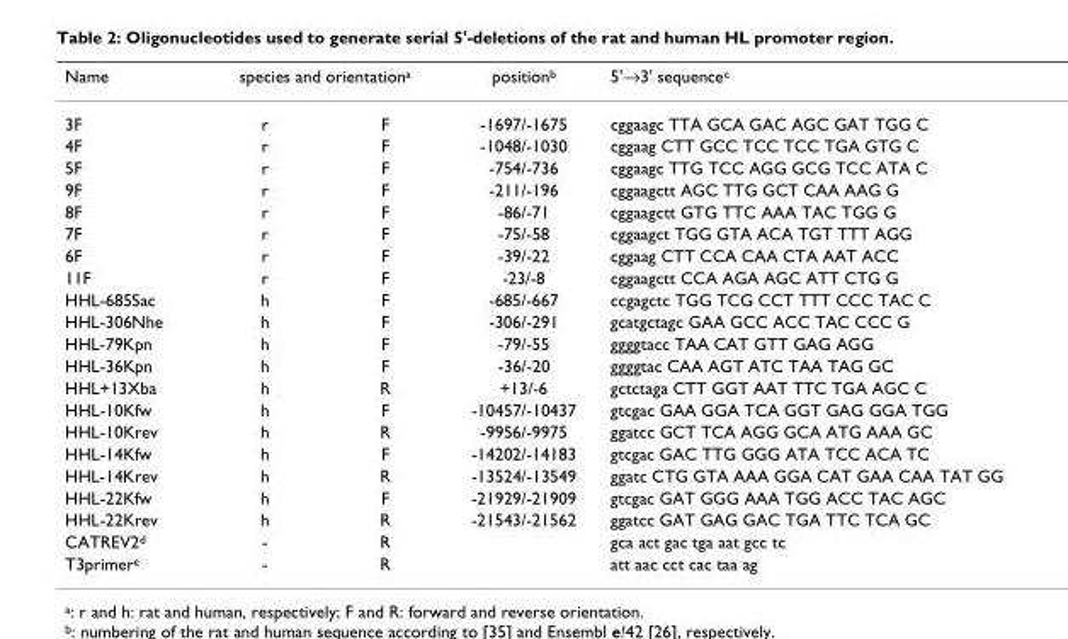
<table><thead><tr><td rowspan="2">Name 3F</td><td colspan="2">species and orientationa</td><td rowspan="2">positionb -1697/-1675</td><td rowspan="2">5&#x27;→3&#x27; sequencec cggaagc TTA GCA GAC AGC GAT TGG C</td></tr><tr><td>r</td><td>F</td></tr></thead><tbody><tr><td>4F</td><td>r</td><td>F</td><td>-1048/-1030</td><td>cggaag CTT GCC TCC TCC TGA GTG C</td></tr><tr><td>5F</td><td>r</td><td>F</td><td>-754/-736</td><td>cggaagc TTG TCC AGG GCG TCC ATA C</td></tr><tr><td>9F</td><td>r</td><td>F</td><td>-211/-196</td><td>cggaagctt AGC TTG GCT CAA AAG G</td></tr><tr><td>8F</td><td>r</td><td>F</td><td>-86/-71</td><td>cggaagctt GTG TTC AAA TAC TGG G</td></tr><tr><td>7F</td><td>r</td><td>F</td><td>-75/-58</td><td>cggaagct TGG GTA ACA TGT TTT AGG</td></tr><tr><td>6F</td><td>r</td><td>F</td><td>-39/-22</td><td>cggaag CTT CCA CAA CTA AAT ACC</td></tr><tr><td>11F</td><td>r</td><td>F</td><td>-23/-8</td><td>cggaagctt CCA AGA AGC ATT CTG G</td></tr><tr><td>HHL-685Sac</td><td>h</td><td>F</td><td>-685/-667</td><td>ccgagctc TGG TCG CCT TTT CCC TAC C</td></tr><tr><td>HHL-306Nhe</td><td>h</td><td>F</td><td>-306/-291</td><td>gcatgctagc GAA GCC ACC TAC CCC G</td></tr><tr><td>HHL-79Kpn</td><td>h</td><td>F</td><td>-79/-55</td><td>ggggtacc TAA CAT GTT GAG AGG</td></tr><tr><td>HHL-36Kpn</td><td>h</td><td>F</td><td>-36/-20</td><td>ggggtac CAA AGT ATC TAA TAG GC</td></tr><tr><td>HHL+13Xba</td><td>h</td><td>R</td><td>+13/-6</td><td>gctctaga CTT GGT AAT TTC TGA AGC C</td></tr><tr><td>HHL-10Kfw</td><td>h</td><td>F</td><td>-10457/-10437</td><td>gtcgac GAA GGA TCA GGT GAG GGA TGG</td></tr><tr><td>HHL-10Krev</td><td>h</td><td>R</td><td>-9956/-9975</td><td>ggatcc GCT TCA AGG GCA ATG AAA GC</td></tr><tr><td>HHL-14Kfw</td><td>h</td><td>F</td><td>-14202/-14183</td><td>gtcgac GAC TTG GGG ATA TCC ACA TC</td></tr><tr><td>HHL-14Krev</td><td>h</td><td>R</td><td>-13524/-13549</td><td>ggatc CTG GTA AAA GGA CAT GAA CAA TAT GG</td></tr><tr><td>HHL-22Kfw</td><td>h</td><td>F</td><td>-21929/-21909</td><td>gtcgac GAT GGG AAA TGG ACC TAC AGC</td></tr><tr><td>HHL-22Krev</td><td>h</td><td>R</td><td>-21543/-21562</td><td>ggatcc GAT GAG GAC TGA TTC TCA GC</td></tr><tr><td>CATREV2d</td><td>-</td><td>R</td><td></td><td>gca act gac tga aat gcc tc</td></tr><tr><td>T3primere</td><td>-</td><td>R</td><td></td><td>att aac cct cac taa ag</td></tr></tbody></table>